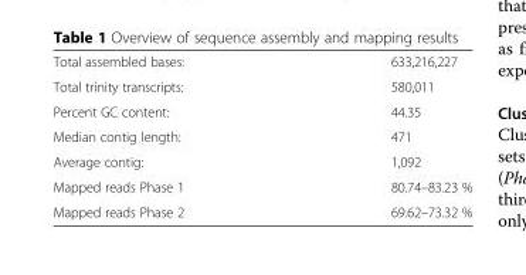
<table><tbody><tr><td>Total assembled bases:</td><td>633,216,227</td></tr><tr><td>Total trinity transcripts:</td><td>580,011</td></tr><tr><td>Percent GC content:</td><td>44.35</td></tr><tr><td>Median contig length:</td><td>471</td></tr><tr><td>Average contig:</td><td>1,092</td></tr><tr><td>Mapped reads Phase 1</td><td>80.74–83.23 %</td></tr><tr><td>Mapped reads Phase 2</td><td>69.62–73.32 %</td></tr></tbody></table>